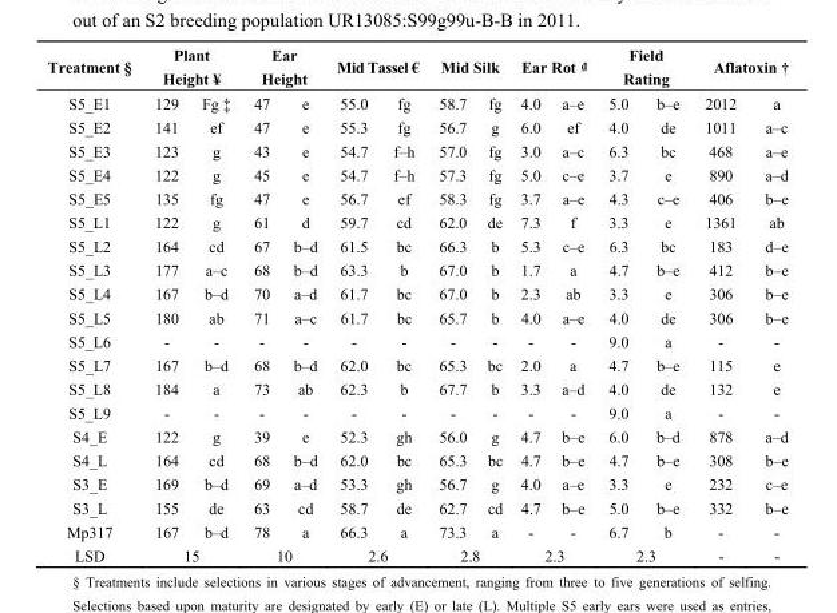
<table><thead><tr><td rowspan="2">Treatment § S5_E1</td><td colspan="2">Plant Height ¥</td><td colspan="2">Ear Height</td><td colspan="2">Mid Tassel €</td><td colspan="2">Mid Silk</td><td colspan="2">Ear Rot ₫</td><td colspan="2">Field Rating</td><td colspan="2">Aflatoxin †</td></tr><tr><td>129</td><td>Fg ‡</td><td>47</td><td>e</td><td>55.0</td><td>fg</td><td>58.7</td><td>fg</td><td>4.0</td><td>a–e</td><td>5.0</td><td>b–e</td><td>2012</td><td>a</td></tr></thead><tbody><tr><td>S5_E2</td><td>141</td><td>ef</td><td>47</td><td>e</td><td>55.3</td><td>fg</td><td>56.7</td><td>g</td><td>6.0</td><td>ef</td><td>4.0</td><td>de</td><td>1011</td><td>a–c</td></tr><tr><td>S5_E3</td><td>123</td><td>g</td><td>43</td><td>e</td><td>54.7</td><td>f–h</td><td>57.0</td><td>fg</td><td>3.0</td><td>a–c</td><td>6.3</td><td>bc</td><td>468</td><td>a–e</td></tr><tr><td>S5_E4</td><td>122</td><td>g</td><td>45</td><td>e</td><td>54.7</td><td>f–h</td><td>57.3</td><td>fg</td><td>5.0</td><td>c–e</td><td>3.7</td><td>e</td><td>890</td><td>a–d</td></tr><tr><td>S5_E5</td><td>135</td><td>fg</td><td>47</td><td>e</td><td>56.7</td><td>ef</td><td>58.3</td><td>fg</td><td>3.7</td><td>a–e</td><td>4.3</td><td>c–e</td><td>406</td><td>b–e</td></tr><tr><td>S5_L1</td><td>122</td><td>g</td><td>61</td><td>d</td><td>59.7</td><td>cd</td><td>62.0</td><td>de</td><td>7.3</td><td>f</td><td>3.3</td><td>e</td><td>1361</td><td>ab</td></tr><tr><td>S5_L2</td><td>164</td><td>cd</td><td>67</td><td>b–d</td><td>61.5</td><td>bc</td><td>66.3</td><td>b</td><td>5.3</td><td>c–e</td><td>6.3</td><td>bc</td><td>183</td><td>d–e</td></tr><tr><td>S5_L3</td><td>177</td><td>a–c</td><td>68</td><td>b–d</td><td>63.3</td><td>b</td><td>67.0</td><td>b</td><td>1.7</td><td>a</td><td>4.7</td><td>b–e</td><td>412</td><td>b–e</td></tr><tr><td>S5_L4</td><td>167</td><td>b–d</td><td>70</td><td>a–d</td><td>61.7</td><td>bc</td><td>67.0</td><td>b</td><td>2.3</td><td>ab</td><td>3.3</td><td>e</td><td>306</td><td>b–e</td></tr><tr><td>S5_L5</td><td>180</td><td>ab</td><td>71</td><td>a–c</td><td>61.7</td><td>bc</td><td>65.7</td><td>b</td><td>4.0</td><td>a–e</td><td>4.0</td><td>de</td><td>306</td><td>b–e</td></tr><tr><td>S5_L6</td><td>-</td><td>-</td><td>-</td><td>-</td><td>-</td><td>-</td><td>-</td><td>-</td><td>-</td><td>-</td><td>9.0</td><td>a</td><td>-</td><td>-</td></tr><tr><td>S5_L7</td><td>167</td><td>b–d</td><td>68</td><td>b–d</td><td>62.0</td><td>bc</td><td>65.3</td><td>bc</td><td>2.0</td><td>a</td><td>4.7</td><td>b–e</td><td>115</td><td>e</td></tr><tr><td>S5_L8</td><td>184</td><td>a</td><td>73</td><td>ab</td><td>62.3</td><td>b</td><td>67.7</td><td>b</td><td>3.3</td><td>a–d</td><td>4.0</td><td>de</td><td>132</td><td>e</td></tr><tr><td>S5_L9</td><td>-</td><td>-</td><td>-</td><td>-</td><td>-</td><td>-</td><td>-</td><td>-</td><td>-</td><td>-</td><td>9.0</td><td>a</td><td>-</td><td>-</td></tr><tr><td>S4_E</td><td>122</td><td>g</td><td>39</td><td>e</td><td>52.3</td><td>gh</td><td>56.0</td><td>g</td><td>4.7</td><td>b–e</td><td>6.0</td><td>b–d</td><td>878</td><td>a–d</td></tr><tr><td>S4_L</td><td>164</td><td>cd</td><td>68</td><td>b–d</td><td>62.0</td><td>bc</td><td>65.3</td><td>bc</td><td>4.7</td><td>b–e</td><td>4.7</td><td>b–e</td><td>308</td><td>b–e</td></tr><tr><td>S3_E</td><td>169</td><td>b–d</td><td>69</td><td>a–d</td><td>53.3</td><td>gh</td><td>56.7</td><td>g</td><td>4.0</td><td>a–e</td><td>3.3</td><td>e</td><td>232</td><td>c–e</td></tr><tr><td>S3_L</td><td>155</td><td>de</td><td>63</td><td>cd</td><td>58.7</td><td>de</td><td>62.7</td><td>cd</td><td>4.7</td><td>b–e</td><td>5.0</td><td>b–e</td><td>332</td><td>b–e</td></tr><tr><td>Mp317</td><td>167</td><td>b–d</td><td>78</td><td>a</td><td>66.3</td><td>a</td><td>73.3</td><td>a</td><td>-</td><td>-</td><td>6.7</td><td>b</td><td>-</td><td>-</td></tr><tr><td>LSD</td><td colspan="2">15</td><td colspan="2">10</td><td colspan="2">2.6</td><td colspan="2">2.8</td><td colspan="2">2.3</td><td colspan="2">2.3</td><td>-</td><td>-</td></tr></tbody></table>